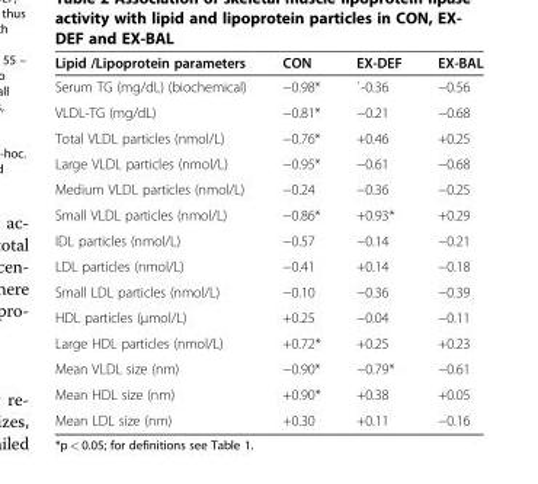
<table><thead><tr><td>Lipid /Lipoprotein parameters</td><td>CON</td><td>EX-DEF</td><td>EX-BAL</td></tr></thead><tbody><tr><td>Serum TG (mg/dL) (biochemical)</td><td>−0.98*</td><td>`-0.36</td><td>−0.56</td></tr><tr><td>VLDL-TG (mg/dL)</td><td>−0.81*</td><td>−0.21</td><td>−0.68</td></tr><tr><td>Total VLDL particles (nmol/L)</td><td>−0.76*</td><td>+0.46</td><td>+0.25</td></tr><tr><td>Large VLDL particles (nmol/L)</td><td>−0.95*</td><td>−0.61</td><td>−0.68</td></tr><tr><td>Medium VLDL particles (nmol/L)</td><td>−0.24</td><td>−0.36</td><td>−0.25</td></tr><tr><td>Small VLDL particles (nmol/L)</td><td>−0.86*</td><td>+0.93*</td><td>+0.29</td></tr><tr><td>IDL particles (nmol/L)</td><td>−0.57</td><td>−0.14</td><td>−0.21</td></tr><tr><td>LDL particles (nmol/L)</td><td>−0.41</td><td>+0.14</td><td>−0.18</td></tr><tr><td>Small LDL particles (nmol/L)</td><td>−0.10</td><td>−0.36</td><td>−0.39</td></tr><tr><td>HDL particles (μmol/L)</td><td>+0.25</td><td>−0.04</td><td>−0.11</td></tr><tr><td>Large HDL particles (nmol/L)</td><td>+0.72*</td><td>+0.25</td><td>+0.23</td></tr><tr><td>Mean VLDL size (nm)</td><td>−0.90*</td><td>−0.79*</td><td>−0.61</td></tr><tr><td>Mean HDL size (nm)</td><td>+0.90*</td><td>+0.38</td><td>+0.05</td></tr><tr><td>Mean LDL size (nm)</td><td>+0.30</td><td>+0.11</td><td>−0.16</td></tr></tbody></table>